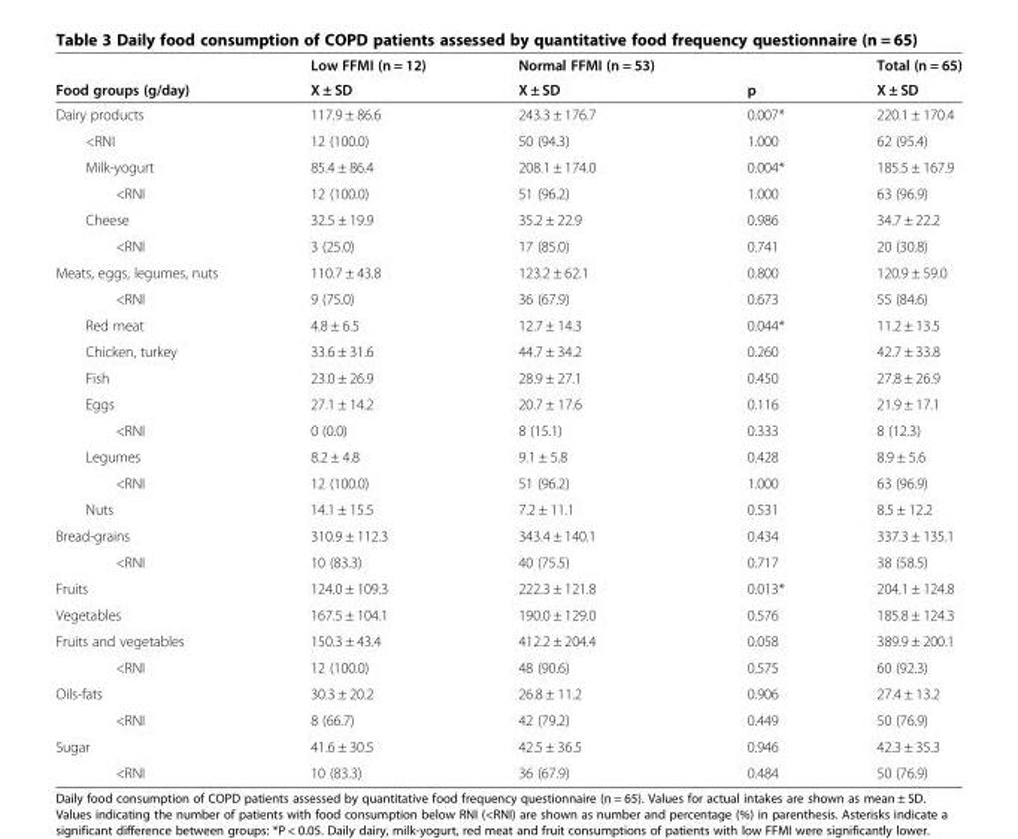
<table><thead><tr><td rowspan="2">Food groups (g/day)</td><td rowspan="2">Low FFMI (n = 12) X ± SD</td><td rowspan="2">Normal FFMI (n = 53) X ± SD</td><td rowspan="2">p</td><td rowspan="2">Total (n = 65) X ± SD</td></tr><tr></tr></thead><tbody><tr><td>Dairy products</td><td>117.9 ± 86.6</td><td>243.3 ± 176.7</td><td>0.007*</td><td>220.1 ± 170.4</td></tr><tr><td>&lt;RNI</td><td>12 (100.0)</td><td>50 (94.3)</td><td>1.000</td><td>62 (95.4)</td></tr><tr><td>Milk-yogurt</td><td>85.4 ± 86.4</td><td>208.1 ± 174.0</td><td>0.004*</td><td>185.5 ± 167.9</td></tr><tr><td>&lt;RNI</td><td>12 (100.0)</td><td>51 (96.2)</td><td>1.000</td><td>63 (96.9)</td></tr><tr><td>Cheese</td><td>32.5 ± 19.9</td><td>35.2 ± 22.9</td><td>0.986</td><td>34.7 ± 22.2</td></tr><tr><td>&lt;RNI</td><td>3 (25.0)</td><td>17 (85.0)</td><td>0.741</td><td>20 (30.8)</td></tr><tr><td>Meats, eggs, legumes, nuts</td><td>110.7 ± 43.8</td><td>123.2 ± 62.1</td><td>0.800</td><td>120.9 ± 59.0</td></tr><tr><td>&lt;RNI</td><td>9 (75.0)</td><td>36 (67.9)</td><td>0.673</td><td>55 (84.6)</td></tr><tr><td>Red meat</td><td>4.8 ± 6.5</td><td>12.7 ± 14.3</td><td>0.044*</td><td>11.2 ± 13.5</td></tr><tr><td>Chicken, turkey</td><td>33.6 ± 31.6</td><td>44.7 ± 34.2</td><td>0.260</td><td>42.7 ± 33.8</td></tr><tr><td>Fish</td><td>23.0 ± 26.9</td><td>28.9 ± 27.1</td><td>0.450</td><td>27.8 ± 26.9</td></tr><tr><td>Eggs</td><td>27.1 ± 14.2</td><td>20.7 ± 17.6</td><td>0.116</td><td>21.9 ± 17.1</td></tr><tr><td>&lt;RNI</td><td>0 (0.0)</td><td>8 (15.1)</td><td>0.333</td><td>8 (12.3)</td></tr><tr><td>Legumes</td><td>8.2 ± 4.8</td><td>9.1 ± 5.8</td><td>0.428</td><td>8.9 ± 5.6</td></tr><tr><td>&lt;RNI</td><td>12 (100.0)</td><td>51 (96.2)</td><td>1.000</td><td>63 (96.9)</td></tr><tr><td>Nuts</td><td>14.1 ± 15.5</td><td>7.2 ± 11.1</td><td>0.531</td><td>8.5 ± 12.2</td></tr><tr><td>Bread-grains</td><td>310.9 ± 112.3</td><td>343.4 ± 140.1</td><td>0.434</td><td>337.3 ± 135.1</td></tr><tr><td>&lt;RNI</td><td>10 (83.3)</td><td>40 (75.5)</td><td>0.717</td><td>38 (58.5)</td></tr><tr><td>Fruits</td><td>124.0 ± 109.3</td><td>222.3 ± 121.8</td><td>0.013*</td><td>204.1 ± 124.8</td></tr><tr><td>Vegetables</td><td>167.5 ± 104.1</td><td>190.0 ± 129.0</td><td>0.576</td><td>185.8 ± 124.3</td></tr><tr><td>Fruits and vegetables</td><td>150.3 ± 43.4</td><td>412.2 ± 204.4</td><td>0.058</td><td>389.9 ± 200.1</td></tr><tr><td>&lt;RNI</td><td>12 (100.0)</td><td>48 (90.6)</td><td>0.575</td><td>60 (92.3)</td></tr><tr><td>Oils-fats</td><td>30.3 ± 20.2</td><td>26.8 ± 11.2</td><td>0.906</td><td>27.4 ± 13.2</td></tr><tr><td>&lt;RNI</td><td>8 (66.7)</td><td>42 (79.2)</td><td>0.449</td><td>50 (76.9)</td></tr><tr><td>Sugar</td><td>41.6 ± 30.5</td><td>42.5 ± 36.5</td><td>0.946</td><td>42.3 ± 35.3</td></tr><tr><td>&lt;RNI</td><td>10 (83.3)</td><td>36 (67.9)</td><td>0.484</td><td>50 (76.9)</td></tr></tbody></table>